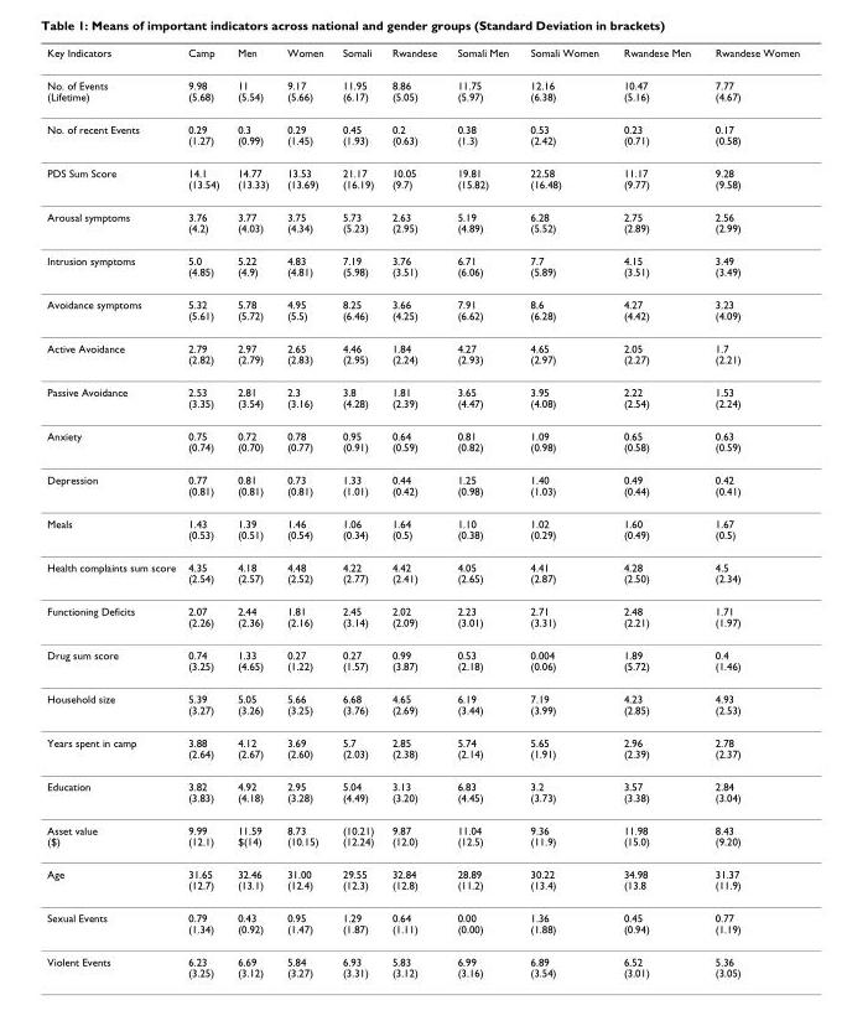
<table><thead><tr><td>Key Indicators</td><td>Camp</td><td>Men</td><td>Women</td><td>Somali</td><td>Rwandese</td><td>Somali Men</td><td>Somali Women</td><td>Rwandese Men</td><td>Rwandese Women</td></tr></thead><tbody><tr><td>No. of Events (Lifetime)</td><td>9.98 (5.68)</td><td>11 (5.54)</td><td>9.17 (5.66)</td><td>11.95 (6.17)</td><td>8.86 (5.05)</td><td>11.75 (5.97)</td><td>12.16 (6.38)</td><td>10.47 (5.16)</td><td>7.77 (4.67)</td></tr><tr><td>No. of recent Events</td><td>0.29 (1.27)</td><td>0.3 (0.99)</td><td>0.29 (1.45)</td><td>0.45 (1.93)</td><td>0.2 (0.63)</td><td>0.38 (1.3)</td><td>0.53 (2.42)</td><td>0.23 (0.71)</td><td>0.17 (0.58)</td></tr><tr><td>PDS Sum Score</td><td>14.1 (13.54)</td><td>14.77 (13.33)</td><td>13.53 (13.69)</td><td>21.17 (16.19)</td><td>10.05 (9.7)</td><td>19.81 (15.82)</td><td>22.58 (16.48)</td><td>11.17 (9.77)</td><td>9.28 (9.58)</td></tr><tr><td>Arousal symptoms</td><td>3.76 (4.2)</td><td>3.77 (4.03)</td><td>3.75 (4.34)</td><td>5.73 (5.23)</td><td>2.63 (2.95)</td><td>5.19 (4.89)</td><td>6.28 (5.52)</td><td>2.75 (2.89)</td><td>2.56 (2.99)</td></tr><tr><td>Intrusion symptoms</td><td>5.0 (4.85)</td><td>5.22 (4.9)</td><td>4.83 (4.81)</td><td>7.19 (5.98)</td><td>3.76 (3.51)</td><td>6.71 (6.06)</td><td>7.7 (5.89)</td><td>4.15 (3.51)</td><td>3.49 (3.49)</td></tr><tr><td>Avoidance symptoms</td><td>5.32 (5.61)</td><td>5.78 (5.72)</td><td>4.95 (5.5)</td><td>8.25 (6.46)</td><td>3.66 (4.25)</td><td>7.91 (6.62)</td><td>8.6 (6.28)</td><td>4.27 (4.42)</td><td>3.23 (4.09)</td></tr><tr><td>Active Avoidance</td><td>2.79 (2.82)</td><td>2.97 (2.79)</td><td>2.65 (2.83)</td><td>4.46 (2.95)</td><td>1.84 (2.24)</td><td>4.27 (2.93)</td><td>4.65 (2.97)</td><td>2.05 (2.27)</td><td>1.7 (2.21)</td></tr><tr><td>Passive Avoidance</td><td>2.53 (3.35)</td><td>2.81 (3.54)</td><td>2.3 (3.16)</td><td>3.8 (4.28)</td><td>1.81 (2.39)</td><td>3.65 (4.47)</td><td>3.95 (4.08)</td><td>2.22 (2.54)</td><td>1.53 (2.24)</td></tr><tr><td>Anxiety</td><td>0.75 (0.74)</td><td>0.72 (0.70)</td><td>0.78 (0.77)</td><td>0.95 (0.91)</td><td>0.64 (0.59)</td><td>0.81 (0.82)</td><td>1.09 (0.98)</td><td>0.65 (0.58)</td><td>0.63 (0.59)</td></tr><tr><td>Depression</td><td>0.77 (0.81)</td><td>0.81 (0.81)</td><td>0.73 (0.81)</td><td>1.33 (1.01)</td><td>0.44 (0.42)</td><td>1.25 (0.98)</td><td>1.40 (1.03)</td><td>0.49 (0.44)</td><td>0.42 (0.41)</td></tr><tr><td>Meals</td><td>1.43 (0.53)</td><td>1.39 (0.51)</td><td>1.46 (0.54)</td><td>1.06 (0.34)</td><td>1.64 (0.5)</td><td>1.10 (0.38)</td><td>1.02 (0.29)</td><td>1.60 (0.49)</td><td>1.67 (0.5)</td></tr><tr><td>Health complaints sum score</td><td>4.35 (2.54)</td><td>4.18 (2.57)</td><td>4.48 (2.52)</td><td>4.22 (2.77)</td><td>4.42 (2.41)</td><td>4.05 (2.65)</td><td>4.41 (2.87)</td><td>4.28 (2.50)</td><td>4.5 (2.34)</td></tr><tr><td>Functioning Deficits</td><td>2.07 (2.26)</td><td>2.44 (2.36)</td><td>1.81 (2.16)</td><td>2.45 (3.14)</td><td>2.02 (2.09)</td><td>2.23 (3.01)</td><td>2.71 (3.31)</td><td>2.48 (2.21)</td><td>1.71 (1.97)</td></tr><tr><td>Drug sum score</td><td>0.74 (3.25)</td><td>1.33 (4.65)</td><td>0.27 (1.22)</td><td>0.27 (1.57)</td><td>0.99 (3.87)</td><td>0.53 (2.18)</td><td>0.004 (0.06)</td><td>1.89 (5.72)</td><td>0.4 (1.46)</td></tr><tr><td>Household size</td><td>5.39 (3.27)</td><td>5.05 (3.26)</td><td>5.66 (3.25)</td><td>6.68 (3.76)</td><td>4.65 (2.69)</td><td>6.19 (3.44)</td><td>7.19 (3.99)</td><td>4.23 (2.85)</td><td>4.93 (2.53)</td></tr><tr><td>Years spent in camp</td><td>3.88 (2.64)</td><td>4.12 (2.67)</td><td>3.69 (2.60)</td><td>5.7 (2.03)</td><td>2.85 (2.38)</td><td>5.74 (2.14)</td><td>5.65 (1.91)</td><td>2.96 (2.39)</td><td>2.78 (2.37)</td></tr><tr><td>Education</td><td>3.82 (3.83)</td><td>4.92 (4.18)</td><td>2.95 (3.28)</td><td>5.04 (4.49)</td><td>3.13 (3.20)</td><td>6.83 (4.45)</td><td>3.2 (3.73)</td><td>3.57 (3.38)</td><td>2.84 (3.04)</td></tr><tr><td>Asset value ($)</td><td>9.99 (12.1)</td><td>11.59 $(14)</td><td>8.73 (10.15)</td><td>(10.21) (12.24)</td><td>9.87 (12.0)</td><td>11.04 (12.5)</td><td>9.36 (11.9)</td><td>11.98 (15.0)</td><td>8.43 (9.20)</td></tr><tr><td>Age</td><td>31.65 (12.7)</td><td>32.46 (13.1)</td><td>31.00 (12.4)</td><td>29.55 (12.3)</td><td>32.84 (12.8)</td><td>28.89 (11.2)</td><td>30.22 (13.4)</td><td>34.98 (13.8</td><td>31.37 (11.9)</td></tr><tr><td>Sexual Events</td><td>0.79 (1.34)</td><td>0.43 (0.92)</td><td>0.95 (1.47)</td><td>1.29 (1.87)</td><td>0.64 (1.11)</td><td>0.00 (0.00)</td><td>1.36 (1.88)</td><td>0.45 (0.94)</td><td>0.77 (1.19)</td></tr><tr><td>Violent Events</td><td>6.23 (3.25)</td><td>6.69 (3.12)</td><td>5.84 (3.27)</td><td>6.93 (3.31)</td><td>5.83 (3.12)</td><td>6.99 (3.16)</td><td>6.89 (3.54)</td><td>6.52 (3.01)</td><td>5.36 (3.05)</td></tr></tbody></table>